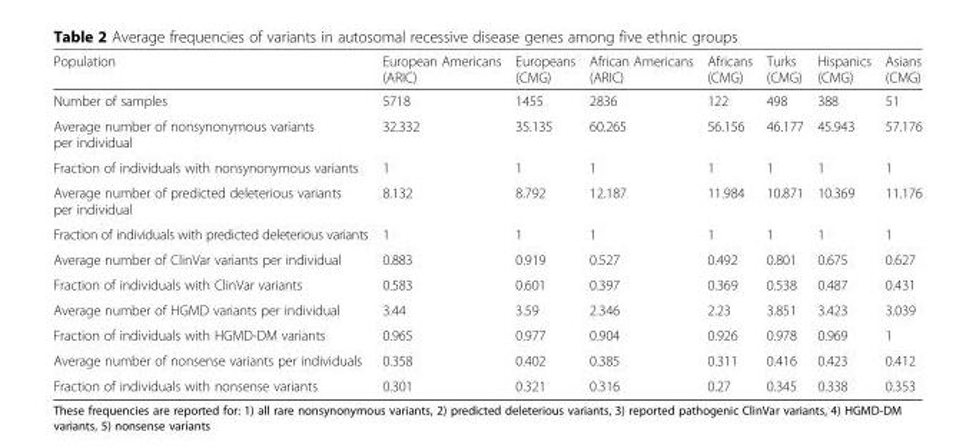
<table><thead><tr><td>Population</td><td>European Americans (ARIC)</td><td>Europeans (CMG)</td><td>African Americans (ARIC)</td><td>Africans (CMG)</td><td>Turks (CMG)</td><td>Hispanics (CMG)</td><td>Asians (CMG)</td></tr></thead><tbody><tr><td>Number of samples</td><td>5718</td><td>1455</td><td>2836</td><td>122</td><td>498</td><td>388</td><td>51</td></tr><tr><td>Average number of nonsynonymous variants per individual</td><td>32.332</td><td>35.135</td><td>60.265</td><td>56.156</td><td>46.177</td><td>45.943</td><td>57.176</td></tr><tr><td>Fraction of individuals with nonsynonymous variants</td><td>1</td><td>1</td><td>1</td><td>1</td><td>1</td><td>1</td><td>1</td></tr><tr><td>Average number of predicted deleterious variants per individual</td><td>8.132</td><td>8.792</td><td>12.187</td><td>11.984</td><td>10.871</td><td>10.369</td><td>11.176</td></tr><tr><td>Fraction of individuals with predicted deleterious variants</td><td>1</td><td>1</td><td>1</td><td>1</td><td>1</td><td>1</td><td>1</td></tr><tr><td>Average number of ClinVar variants per individual</td><td>0.883</td><td>0.919</td><td>0.527</td><td>0.492</td><td>0.801</td><td>0.675</td><td>0.627</td></tr><tr><td>Fraction of individuals with ClinVar variants</td><td>0.583</td><td>0.601</td><td>0.397</td><td>0.369</td><td>0.538</td><td>0.487</td><td>0.431</td></tr><tr><td>Average number of HGMD variants per individual</td><td>3.44</td><td>3.59</td><td>2.346</td><td>2.23</td><td>3.851</td><td>3.423</td><td>3.039</td></tr><tr><td>Fraction of individuals with HGMD-DM variants</td><td>0.965</td><td>0.977</td><td>0.904</td><td>0.926</td><td>0.978</td><td>0.969</td><td>1</td></tr><tr><td>Average number of nonsense variants per individuals</td><td>0.358</td><td>0.402</td><td>0.385</td><td>0.311</td><td>0.416</td><td>0.423</td><td>0.412</td></tr><tr><td>Fraction of individuals with nonsense variants</td><td>0.301</td><td>0.321</td><td>0.316</td><td>0.27</td><td>0.345</td><td>0.338</td><td>0.353</td></tr></tbody></table>